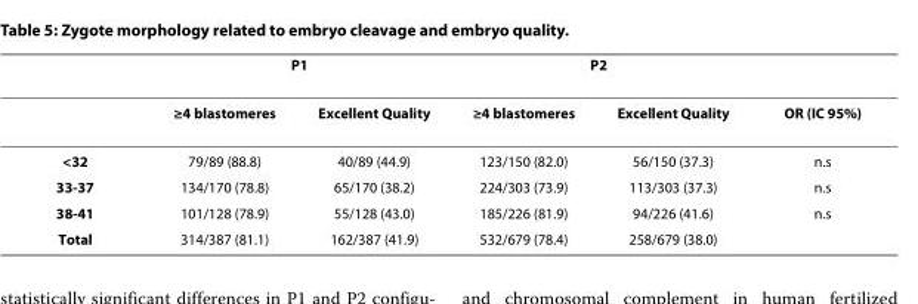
<table><thead><tr><td rowspan="2"></td><td colspan="2">P1</td><td colspan="2">P2</td><td rowspan="2">OR (IC 95%)</td></tr><tr><td>≥4 blastomeres</td><td>Excellent Quality</td><td>≥4 blastomeres</td><td>Excellent Quality</td></tr></thead><tbody><tr><td>&lt;32</td><td>79/89 (88.8)</td><td>40/89 (44.9)</td><td>123/150 (82.0)</td><td>56/150 (37.3)</td><td>n.s</td></tr><tr><td>33-37</td><td>134/170 (78.8)</td><td>65/170 (38.2)</td><td>224/303 (73.9)</td><td>113/303 (37.3)</td><td>n.s</td></tr><tr><td>38-41</td><td>101/128 (78.9)</td><td>55/128 (43.0)</td><td>185/226 (81.9)</td><td>94/226 (41.6)</td><td>n.s</td></tr><tr><td>Total</td><td>314/387 (81.1)</td><td>162/387 (41.9)</td><td>532/679 (78.4)</td><td>258/679 (38.0)</td><td></td></tr></tbody></table>